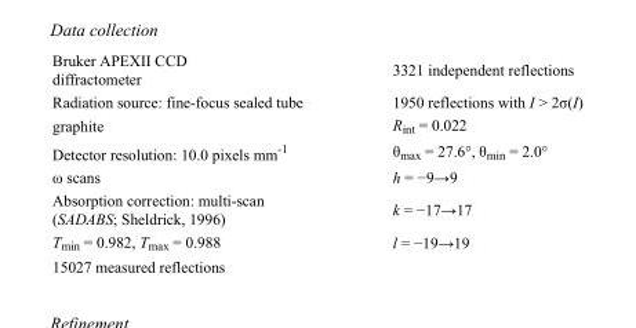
<table><tbody><tr><td>Bruker APEXII CCD diffractometer</td><td>3321 independent reflections</td></tr><tr><td>Radiation source: fine-focus sealed tube</td><td>1950 reflections with I &gt; 2σ(I)</td></tr><tr><td>graphite</td><td>R<sub>int</sub> = 0.022</td></tr><tr><td>Detector resolution: 10.0 pixels mm<sup>-1</sup></td><td>θ<sub>max</sub> = 27.6°, θ<sub>min</sub> = 2.0°</td></tr><tr><td>ω scans</td><td>h = −9→9</td></tr><tr><td>Absorption correction: multi-scan (SADABS; Sheldrick, 1996)</td><td>k = −17→17</td></tr><tr><td>T<sub>min</sub> = 0.982, T<sub>max</sub> = 0.988</td><td>l = −19→19</td></tr><tr><td>15027 measured reflections</td><td></td></tr></tbody></table>